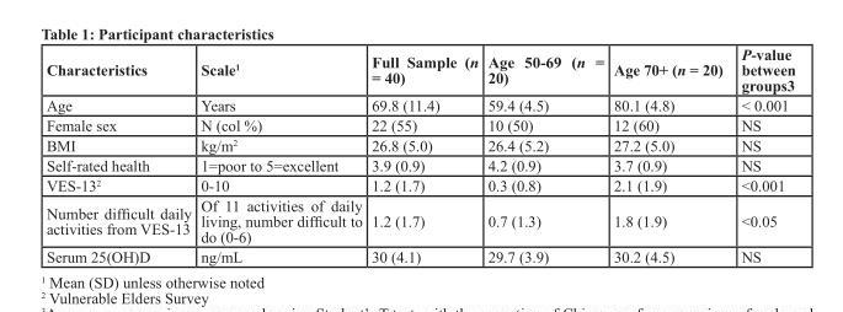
<table><thead><tr><td>Characteristics</td><td>Scale<sup>1</sup></td><td>Full Sample (n = 40)</td><td>Age 50-69 (n = 20)</td><td>Age 70+ (n = 20)</td><td>P-value between groups<sup>3</sup></td></tr></thead><tbody><tr><td>Age</td><td>Years</td><td>69.8 (11.4)</td><td>59.4 (4.5)</td><td>80.1 (4.8)</td><td>&lt; 0.001</td></tr><tr><td>Female sex</td><td>N (col %)</td><td>22 (55)</td><td>10 (50)</td><td>12 (60)</td><td>NS</td></tr><tr><td>BMI</td><td>kg/m<sup>2</sup></td><td>26.8 (5.0)</td><td>26.4 (5.2)</td><td>27.2 (5.0)</td><td>NS</td></tr><tr><td>Self-rated health</td><td>1=poor to 5=excellent</td><td>3.9 (0.9)</td><td>4.2 (0.9)</td><td>3.7 (0.9)</td><td>NS</td></tr><tr><td>VES-13<sup>2</sup></td><td>0-10</td><td>1.2 (1.7)</td><td>0.3 (0.8)</td><td>2.1 (1.9)</td><td>&lt;0.001</td></tr><tr><td>Number difficult daily activities from VES-13</td><td>Of 11 activities of daily living, number difficult to do (0-6)</td><td>1.2 (1.7)</td><td>0.7 (1.3)</td><td>1.8 (1.9)</td><td>&lt;0.05</td></tr><tr><td>Serum 25(OH)D</td><td>ng/mL</td><td>30 (4.1)</td><td>29.7 (3.9)</td><td>30.2 (4.5)</td><td>NS</td></tr></tbody></table>